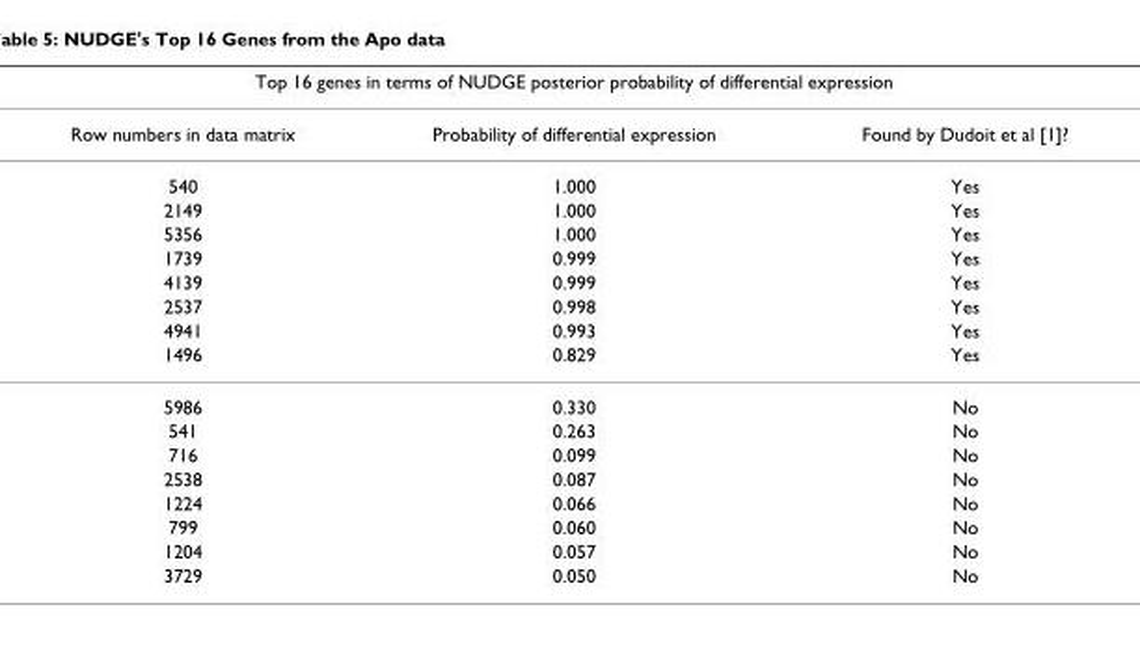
<table><thead><tr><td colspan="3">Top 16 genes in terms of NUDGE posterior probability of differential expression</td></tr><tr><td>Row numbers in data matrix</td><td>Probability of differential expression</td><td>Found by Dudoit et al [1]?</td></tr></thead><tbody><tr><td>540</td><td>1.000</td><td>Yes</td></tr><tr><td>2149</td><td>1.000</td><td>Yes</td></tr><tr><td>5356</td><td>1.000</td><td>Yes</td></tr><tr><td>1739</td><td>0.999</td><td>Yes</td></tr><tr><td>4139</td><td>0.999</td><td>Yes</td></tr><tr><td>2537</td><td>0.998</td><td>Yes</td></tr><tr><td>4941</td><td>0.993</td><td>Yes</td></tr><tr><td>1496</td><td>0.829</td><td>Yes</td></tr><tr><td>5986</td><td>0.330</td><td>No</td></tr><tr><td>541</td><td>0.263</td><td>No</td></tr><tr><td>716</td><td>0.099</td><td>No</td></tr><tr><td>2538</td><td>0.087</td><td>No</td></tr><tr><td>1224</td><td>0.066</td><td>No</td></tr><tr><td>799</td><td>0.060</td><td>No</td></tr><tr><td>1204</td><td>0.057</td><td>No</td></tr><tr><td>3729</td><td>0.050</td><td>No</td></tr></tbody></table>